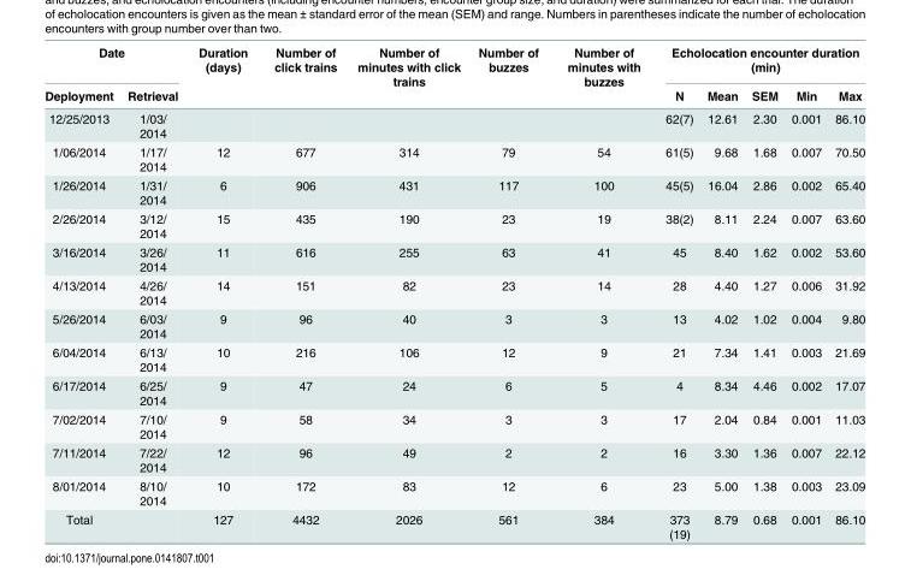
<table><thead><tr><td colspan="2">Date</td><td rowspan="2">Duration (days)</td><td rowspan="2">Number of click trains</td><td rowspan="2">Number of minutes with click trains</td><td rowspan="2">Number of buzzes</td><td rowspan="2">Number of minutes with buzzes</td><td colspan="5">Echolocation encounter duration (min)</td></tr><tr><td>Deployment</td><td>Retrieval</td><td>N</td><td>Mean</td><td>SEM</td><td>Min</td><td>Max</td></tr></thead><tbody><tr><td>12/25/2013</td><td>1/03/ 2014</td><td></td><td></td><td></td><td></td><td></td><td>62(7)</td><td>12.61</td><td>2.30</td><td>0.001</td><td>86.10</td></tr><tr><td>1/06/2014</td><td>1/17/ 2014</td><td>12</td><td>677</td><td>314</td><td>79</td><td>54</td><td>61(5)</td><td>9.68</td><td>1.68</td><td>0.007</td><td>70.50</td></tr><tr><td>1/26/2014</td><td>1/31/ 2014</td><td>6</td><td>906</td><td>431</td><td>117</td><td>100</td><td>45(5)</td><td>16.04</td><td>2.86</td><td>0.002</td><td>65.40</td></tr><tr><td>2/26/2014</td><td>3/12/ 2014</td><td>15</td><td>435</td><td>190</td><td>23</td><td>19</td><td>38(2)</td><td>8.11</td><td>2.24</td><td>0.007</td><td>63.60</td></tr><tr><td>3/16/2014</td><td>3/26/ 2014</td><td>11</td><td>616</td><td>255</td><td>63</td><td>41</td><td>45</td><td>8.40</td><td>1.62</td><td>0.002</td><td>53.60</td></tr><tr><td>4/13/2014</td><td>4/26/ 2014</td><td>14</td><td>151</td><td>82</td><td>23</td><td>14</td><td>28</td><td>4.40</td><td>1.27</td><td>0.006</td><td>31.92</td></tr><tr><td>5/26/2014</td><td>6/03/ 2014</td><td>9</td><td>96</td><td>40</td><td>3</td><td>3</td><td>13</td><td>4.02</td><td>1.02</td><td>0.004</td><td>9.80</td></tr><tr><td>6/04/2014</td><td>6/13/ 2014</td><td>10</td><td>216</td><td>106</td><td>12</td><td>9</td><td>21</td><td>7.34</td><td>1.41</td><td>0.003</td><td>21.69</td></tr><tr><td>6/17/2014</td><td>6/25/ 2014</td><td>9</td><td>47</td><td>24</td><td>6</td><td>5</td><td>4</td><td>8.34</td><td>4.46</td><td>0.002</td><td>17.07</td></tr><tr><td>7/02/2014</td><td>7/10/ 2014</td><td>9</td><td>58</td><td>34</td><td>3</td><td>3</td><td>17</td><td>2.04</td><td>0.84</td><td>0.001</td><td>11.03</td></tr><tr><td>7/11/2014</td><td>7/22/ 2014</td><td>12</td><td>96</td><td>49</td><td>2</td><td>2</td><td>16</td><td>3.30</td><td>1.36</td><td>0.007</td><td>22.12</td></tr><tr><td>8/01/2014</td><td>8/10/ 2014</td><td>10</td><td>172</td><td>83</td><td>12</td><td>6</td><td>23</td><td>5.00</td><td>1.38</td><td>0.003</td><td>23.09</td></tr><tr><td>Total</td><td></td><td>127</td><td>4432</td><td>2026</td><td>561</td><td>384</td><td>373 (19)</td><td>8.79</td><td>0.68</td><td>0.001</td><td>86.10</td></tr></tbody></table>